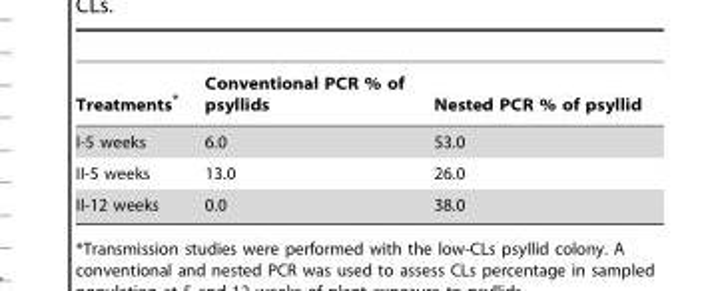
<table><thead><tr><td>Treatments*</td><td>Conventional PCR % of psyllids</td><td>Nested PCR % of psyllid</td></tr></thead><tbody><tr><td>I-5 weeks</td><td>6.0</td><td>53.0</td></tr><tr><td>II-5 weeks</td><td>13.0</td><td>26.0</td></tr><tr><td>II-12 weeks</td><td>0.0</td><td>38.0</td></tr></tbody></table>